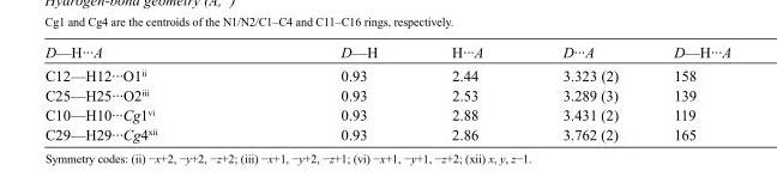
<table><tbody><tr><td>D—H···A</td><td>D—H</td><td>H···A</td><td>D···A</td><td>D—H···A</td></tr><tr><td>C12—H12···O1<sup>ii</sup></td><td>0.93</td><td>2.44</td><td>3.323 (2)</td><td>158</td></tr><tr><td>C25—H25···O2<sup>iii</sup></td><td>0.93</td><td>2.53</td><td>3.289 (3)</td><td>139</td></tr><tr><td>C10—H10···Cg1<sup>vi</sup></td><td>0.93</td><td>2.88</td><td>3.431 (2)</td><td>119</td></tr><tr><td>C29—H29···Cg4<sup>xii</sup></td><td>0.93</td><td>2.86</td><td>3.762 (2)</td><td>165</td></tr></tbody></table>